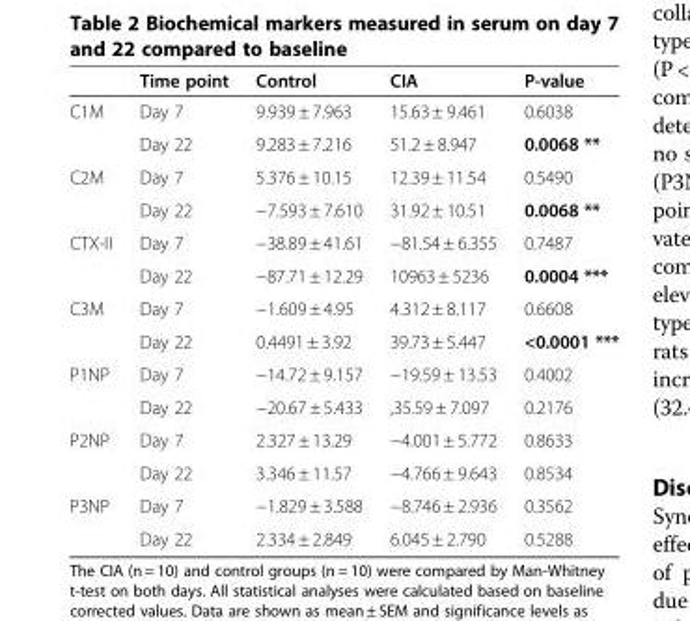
<table><thead><tr><td></td><td>Time point</td><td>Control</td><td>CIA</td><td>P-value</td></tr></thead><tbody><tr><td rowspan="2">C1M</td><td>Day 7</td><td>9.939 ± 7.963</td><td>15.63 ± 9.461</td><td>0.6038</td></tr><tr><td>Day 22</td><td>9.283 ± 7.216</td><td>51.2 ± 8.947</td><td>0.0068 **</td></tr><tr><td rowspan="2">C2M</td><td>Day 7</td><td>5.376 ± 10.15</td><td>12.39 ± 11.54</td><td>0.5490</td></tr><tr><td>Day 22</td><td>−7.593 ± 7.610</td><td>31.92 ± 10.51</td><td>0.0068 **</td></tr><tr><td rowspan="2">CTX-II</td><td>Day 7</td><td>−38.89 ± 41.61</td><td>−81.54 ± 6.355</td><td>0.7487</td></tr><tr><td>Day 22</td><td>−87.71 ± 12.29</td><td>10963 ± 5236</td><td>0.0004 ***</td></tr><tr><td rowspan="2">C3M</td><td>Day 7</td><td>−1.609 ± 4.95</td><td>4.312 ± 8.117</td><td>0.6608</td></tr><tr><td>Day 22</td><td>0.4491 ± 3.92</td><td>39.73 ± 5.447</td><td>&lt;0.0001 ***</td></tr><tr><td rowspan="2">P1NP</td><td>Day 7</td><td>−14.72 ± 9.157</td><td>−19.59 ± 13.53</td><td>0.4002</td></tr><tr><td>Day 22</td><td>−20.67 ± 5.433</td><td>,35.59 ± 7.097</td><td>0.2176</td></tr><tr><td rowspan="2">P2NP</td><td>Day 7</td><td>2.327 ± 13.29</td><td>−4.001 ± 5.772</td><td>0.8633</td></tr><tr><td>Day 22</td><td>3.346 ± 11.57</td><td>−4.766 ± 9.643</td><td>0.8534</td></tr><tr><td rowspan="2">P3NP</td><td>Day 7</td><td>−1.829 ± 3.588</td><td>−8.746 ± 2.936</td><td>0.3562</td></tr><tr><td>Day 22</td><td>2.334 ± 2.849</td><td>6.045 ± 2.790</td><td>0.5288</td></tr></tbody></table>